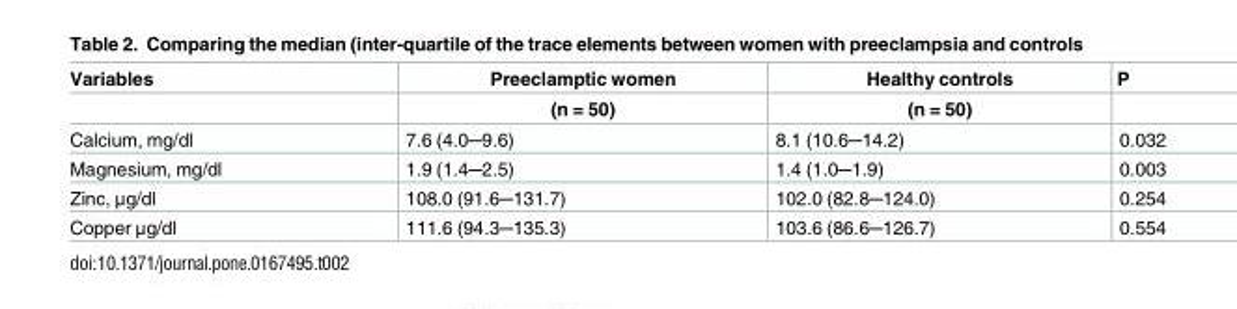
<table><thead><tr><td rowspan="2">Variables</td><td rowspan="2">Preeclamptic women (n = 50)</td><td rowspan="2">Healthy controls (n = 50)</td><td rowspan="2">P</td></tr><tr></tr></thead><tbody><tr><td>Calcium, mg/dl</td><td>7.6 (4.0─9.6)</td><td>8.1 (10.6─14.2)</td><td>0.032</td></tr><tr><td>Magnesium, mg/dl</td><td>1.9 (1.4─2.5)</td><td>1.4 (1.0─1.9)</td><td>0.003</td></tr><tr><td>Zinc, μg/dl</td><td>108.0 (91.6─131.7)</td><td>102.0 (82.8─124.0)</td><td>0.254</td></tr><tr><td>Copper μg/dl</td><td>111.6 (94.3─135.3)</td><td>103.6 (86.6─126.7)</td><td>0.554</td></tr></tbody></table>